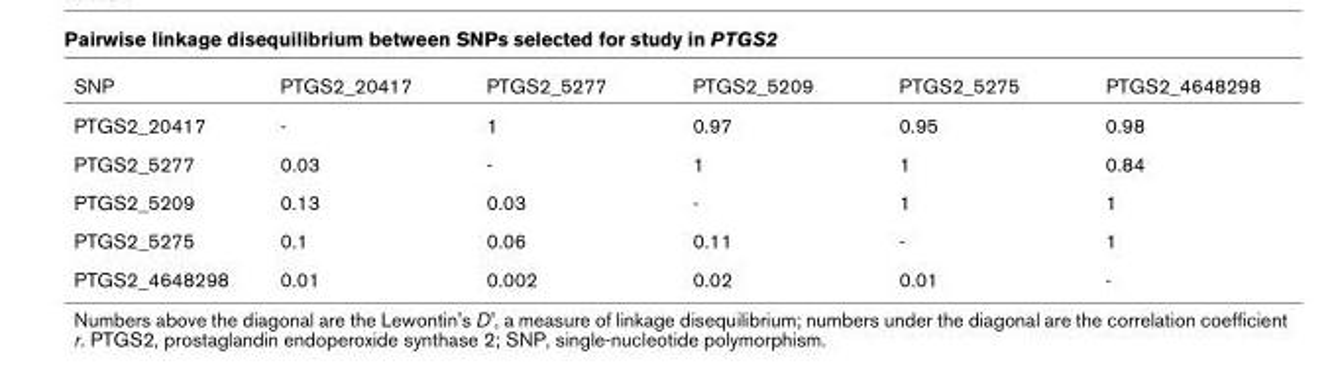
<table><thead><tr><td>SNP</td><td>PTGS2_20417</td><td>PTGS2_5277</td><td>PTGS2_5209</td><td>PTGS2_5275</td><td>PTGS2_4648298</td></tr></thead><tbody><tr><td>PTGS2_20417</td><td>-</td><td>1</td><td>0.97</td><td>0.95</td><td>0.98</td></tr><tr><td>PTGS2_5277</td><td>0.03</td><td>-</td><td>1</td><td>1</td><td>0.84</td></tr><tr><td>PTGS2_5209</td><td>0.13</td><td>0.03</td><td>-</td><td>1</td><td>1</td></tr><tr><td>PTGS2_5275</td><td>0.1</td><td>0.06</td><td>0.11</td><td>-</td><td>1</td></tr><tr><td>PTGS2_4648298</td><td>0.01</td><td>0.002</td><td>0.02</td><td>0.01</td><td>-</td></tr></tbody></table>